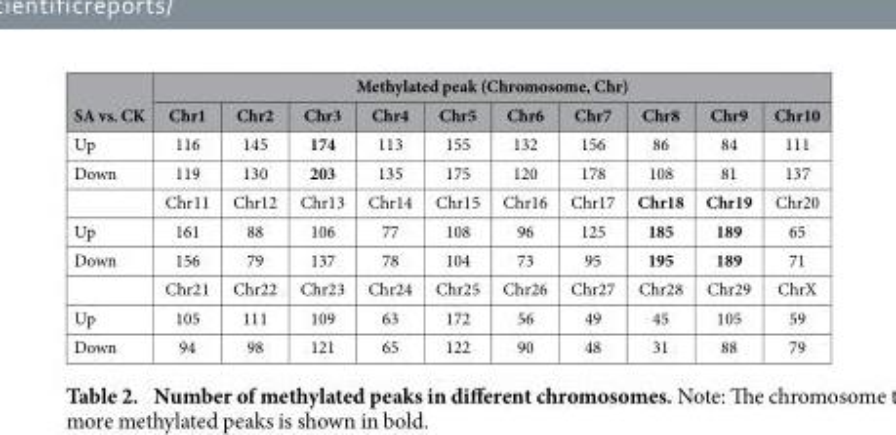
<table><thead><tr><td rowspan="2">SA vs. CK</td><td colspan="10">Methylated peak (Chromosome, Chr)</td></tr><tr><td>Chr1</td><td>Chr2</td><td>Chr3</td><td>Chr4</td><td>Chr5</td><td>Chr6</td><td>Chr7</td><td>Chr8</td><td>Chr9</td><td>Chr10</td></tr></thead><tbody><tr><td>Up</td><td>116</td><td>145</td><td>174</td><td>113</td><td>155</td><td>132</td><td>156</td><td>86</td><td>84</td><td>111</td></tr><tr><td rowspan="2">Down</td><td>119</td><td>130</td><td>203</td><td>135</td><td>175</td><td>120</td><td>178</td><td>108</td><td>81</td><td>137</td></tr><tr><td>Chr11</td><td>Chr12</td><td>Chr13</td><td>Chr14</td><td>Chr15</td><td>Chr16</td><td>Chr17</td><td>Chr18</td><td>Chr19</td><td>Chr20</td></tr><tr><td>Up</td><td>161</td><td>88</td><td>106</td><td>77</td><td>108</td><td>96</td><td>125</td><td>185</td><td>189</td><td>65</td></tr><tr><td rowspan="2">Down</td><td>156</td><td>79</td><td>137</td><td>78</td><td>104</td><td>73</td><td>95</td><td>195</td><td>189</td><td>71</td></tr><tr><td>Chr21</td><td>Chr22</td><td>Chr23</td><td>Chr24</td><td>Chr25</td><td>Chr26</td><td>Chr27</td><td>Chr28</td><td>Chr29</td><td>ChrX</td></tr><tr><td>Up</td><td>105</td><td>111</td><td>109</td><td>63</td><td>172</td><td>56</td><td>49</td><td>45</td><td>105</td><td>59</td></tr><tr><td>Down</td><td>94</td><td>98</td><td>121</td><td>65</td><td>122</td><td>90</td><td>48</td><td>31</td><td>88</td><td>79</td></tr></tbody></table>